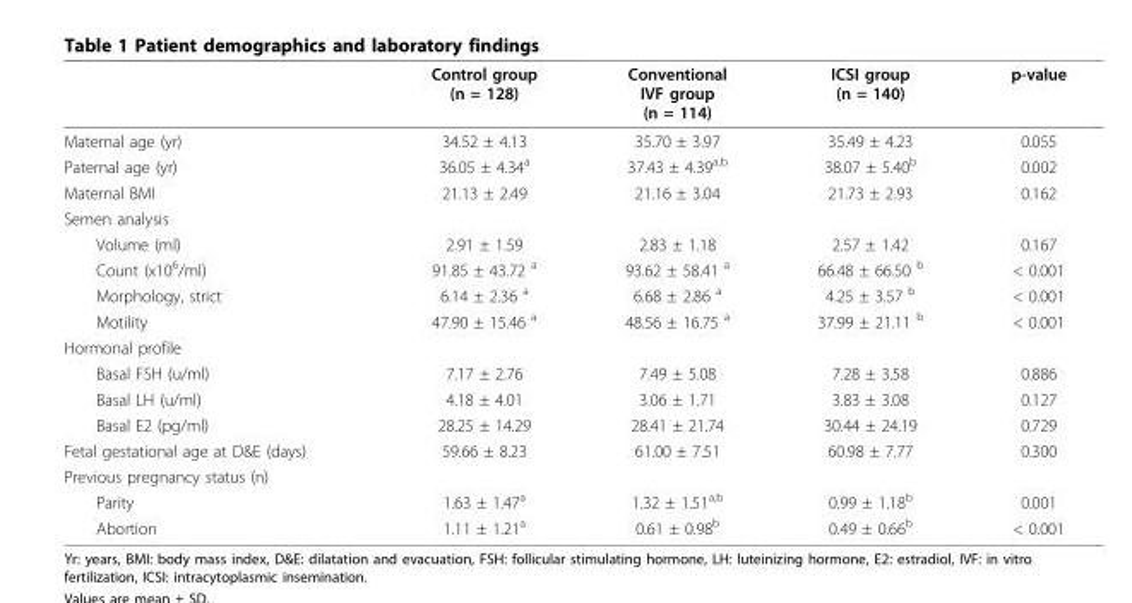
<table><thead><tr><td></td><td>Control group (n = 128)</td><td>Conventional IVF group (n = 114)</td><td>ICSI group (n = 140)</td><td>p-value</td></tr></thead><tbody><tr><td>Maternal age (yr)</td><td>34.52 ± 4.13</td><td>35.70 ± 3.97</td><td>35.49 ± 4.23</td><td>0.055</td></tr><tr><td>Paternal age (yr)</td><td>36.05 ± 4.34<sup>a</sup></td><td>37.43 ± 4.39<sup>a,b</sup></td><td>38.07 ± 5.40<sup>b</sup></td><td>0.002</td></tr><tr><td>Maternal BMI</td><td>21.13 ± 2.49</td><td>21.16 ± 3.04</td><td>21.73 ± 2.93</td><td>0.162</td></tr><tr><td colspan="5">Semen analysis</td></tr><tr><td>Volume (ml)</td><td>2.91 ± 1.59</td><td>2.83 ± 1.18</td><td>2.57 ± 1.42</td><td>0.167</td></tr><tr><td>Count (x10<sup>6</sup>/ml)</td><td>91.85 ± 43.72 <sup>a</sup></td><td>93.62 ± 58.41 <sup>a</sup></td><td>66.48 ± 66.50 <sup>b</sup></td><td>&lt; 0.001</td></tr><tr><td>Morphology, strict</td><td>6.14 ± 2.36 <sup>a</sup></td><td>6.68 ± 2.86 <sup>a</sup></td><td>4.25 ± 3.57 <sup>b</sup></td><td>&lt; 0.001</td></tr><tr><td>Motility</td><td>47.90 ± 15.46 <sup>a</sup></td><td>48.56 ± 16.75 <sup>a</sup></td><td>37.99 ± 21.11 <sup>b</sup></td><td>&lt; 0.001</td></tr><tr><td colspan="5">Hormonal profile</td></tr><tr><td>Basal FSH (u/ml)</td><td>7.17 ± 2.76</td><td>7.49 ± 5.08</td><td>7.28 ± 3.58</td><td>0.886</td></tr><tr><td>Basal LH (u/ml)</td><td>4.18 ± 4.01</td><td>3.06 ± 1.71</td><td>3.83 ± 3.08</td><td>0.127</td></tr><tr><td>Basal E2 (pg/ml)</td><td>28.25 ± 14.29</td><td>28.41 ± 21.74</td><td>30.44 ± 24.19</td><td>0.729</td></tr><tr><td>Fetal gestational age at D&amp;E (days)</td><td>59.66 ± 8.23</td><td>61.00 ± 7.51</td><td>60.98 ± 7.77</td><td>0.300</td></tr><tr><td colspan="5">Previous pregnancy status (n)</td></tr><tr><td>Parity</td><td>1.63 ± 1.47<sup>a</sup></td><td>1.32 ± 1.51<sup>a,b</sup></td><td>0.99 ± 1.18<sup>b</sup></td><td>0.001</td></tr><tr><td>Abortion</td><td>1.11 ± 1.21<sup>a</sup></td><td>0.61 ± 0.98<sup>b</sup></td><td>0.49 ± 0.66<sup>b</sup></td><td>&lt; 0.001</td></tr></tbody></table>